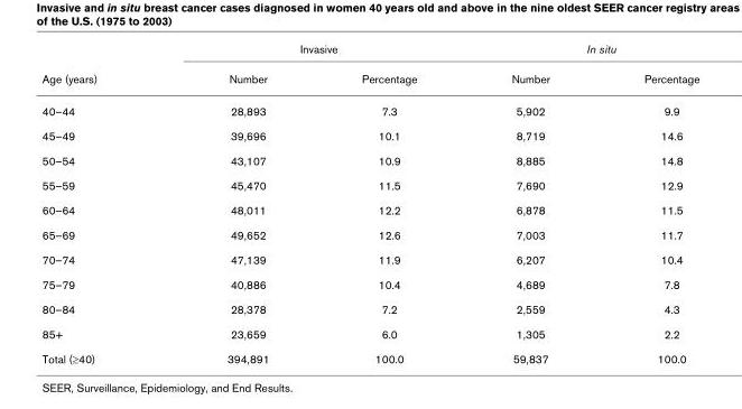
<table><thead><tr><td rowspan="2">Age (years)</td><td colspan="2">Invasive</td><td colspan="2">In situ</td></tr><tr><td>Number</td><td>Percentage</td><td>Number</td><td>Percentage</td></tr></thead><tbody><tr><td>40–44</td><td>28,893</td><td>7.3</td><td>5,902</td><td>9.9</td></tr><tr><td>45–49</td><td>39,696</td><td>10.1</td><td>8,719</td><td>14.6</td></tr><tr><td>50–54</td><td>43,107</td><td>10.9</td><td>8,885</td><td>14.8</td></tr><tr><td>55–59</td><td>45,470</td><td>11.5</td><td>7,690</td><td>12.9</td></tr><tr><td>60–64</td><td>48,011</td><td>12.2</td><td>6,878</td><td>11.5</td></tr><tr><td>65–69</td><td>49,652</td><td>12.6</td><td>7,003</td><td>11.7</td></tr><tr><td>70–74</td><td>47,139</td><td>11.9</td><td>6,207</td><td>10.4</td></tr><tr><td>75–79</td><td>40,886</td><td>10.4</td><td>4,689</td><td>7.8</td></tr><tr><td>80–84</td><td>28,378</td><td>7.2</td><td>2,559</td><td>4.3</td></tr><tr><td>85+</td><td>23,659</td><td>6.0</td><td>1,305</td><td>2.2</td></tr><tr><td>Total (≥40)</td><td>394,891</td><td>100.0</td><td>59,837</td><td>100.0</td></tr></tbody></table>